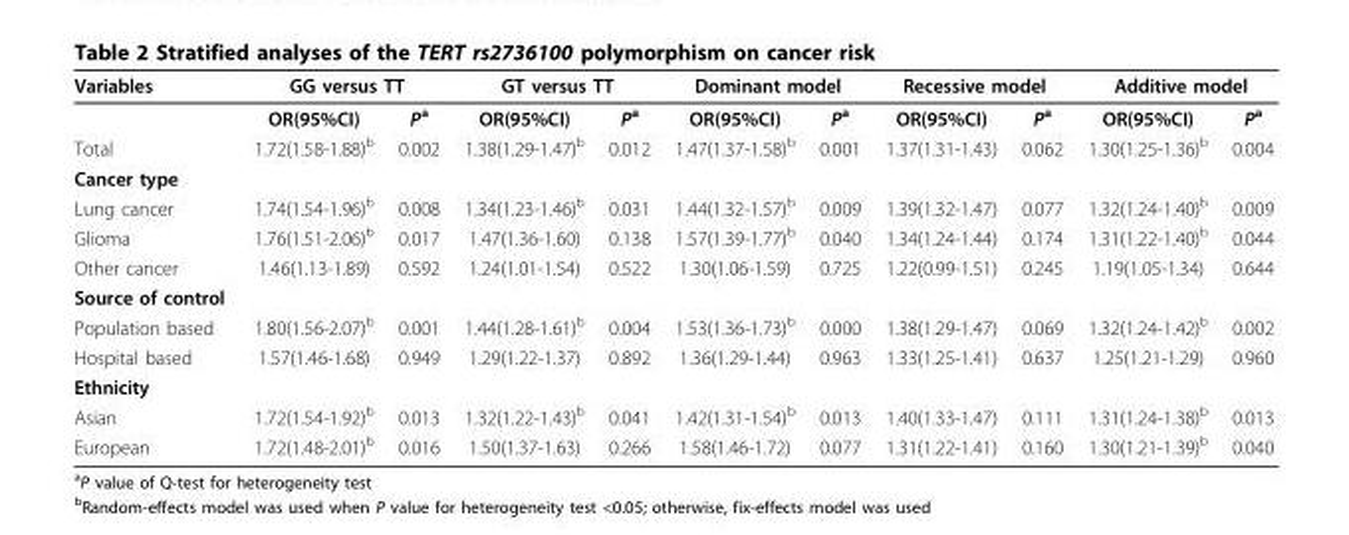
<table><thead><tr><td rowspan="2">Variables</td><td colspan="2">GG versus TT</td><td colspan="2">GT versus TT</td><td colspan="2">Dominant model</td><td colspan="2">Recessive model</td><td colspan="2">Additive model</td></tr><tr><td>OR(95%CI)</td><td>P<sup>a</sup></td><td>OR(95%CI)</td><td>P<sup>a</sup></td><td>OR(95%CI)</td><td>P<sup>a</sup></td><td>OR(95%CI)</td><td>P<sup>a</sup></td><td>OR(95%CI)</td><td>P<sup>a</sup></td></tr></thead><tbody><tr><td>Total</td><td>1.72(1.58-1.88)<sup>b</sup></td><td>0.002</td><td>1.38(1.29-1.47)<sup>b</sup></td><td>0.012</td><td>1.47(1.37-1.58)<sup>b</sup></td><td>0.001</td><td>1.37(1.31-1.43)</td><td>0.062</td><td>1.30(1.25-1.36)<sup>b</sup></td><td>0.004</td></tr><tr><td colspan="11">Cancer type</td></tr><tr><td>Lung cancer</td><td>1.74(1.54-1.96)<sup>b</sup></td><td>0.008</td><td>1.34(1.23-1.46)<sup>b</sup></td><td>0.031</td><td>1.44(1.32-1.57)<sup>b</sup></td><td>0.009</td><td>1.39(1.32-1.47)</td><td>0.077</td><td>1.32(1.24-1.40)<sup>b</sup></td><td>0.009</td></tr><tr><td>Glioma</td><td>1.76(1.51-2.06)<sup>b</sup></td><td>0.017</td><td>1.47(1.36-1.60)</td><td>0.138</td><td>1.57(1.39-1.77)<sup>b</sup></td><td>0.040</td><td>1.34(1.24-1.44)</td><td>0.174</td><td>1.31(1.22-1.40)<sup>b</sup></td><td>0.044</td></tr><tr><td>Other cancer</td><td>1.46(1.13-1.89)</td><td>0.592</td><td>1.24(1.01-1.54)</td><td>0.522</td><td>1.30(1.06-1.59)</td><td>0.725</td><td>1.22(0.99-1.51)</td><td>0.245</td><td>1.19(1.05-1.34)</td><td>0.644</td></tr><tr><td colspan="11">Source of control</td></tr><tr><td>Population based</td><td>1.80(1.56-2.07)<sup>b</sup></td><td>0.001</td><td>1.44(1.28-1.61)<sup>b</sup></td><td>0.004</td><td>1.53(1.36-1.73)<sup>b</sup></td><td>0.000</td><td>1.38(1.29-1.47)</td><td>0.069</td><td>1.32(1.24-1.42)<sup>b</sup></td><td>0.002</td></tr><tr><td>Hospital based</td><td>1.57(1.46-1.68)</td><td>0.949</td><td>1.29(1.22-1.37)</td><td>0.892</td><td>1.36(1.29-1.44)</td><td>0.963</td><td>1.33(1.25-1.41)</td><td>0.637</td><td>1.25(1.21-1.29)</td><td>0.960</td></tr><tr><td colspan="11">Ethnicity</td></tr><tr><td>Asian</td><td>1.72(1.54-1.92)<sup>b</sup></td><td>0.013</td><td>1.32(1.22-1.43)<sup>b</sup></td><td>0.041</td><td>1.42(1.31-1.54)<sup>b</sup></td><td>0.013</td><td>1.40(1.33-1.47)</td><td>0.111</td><td>1.31(1.24-1.38)<sup>b</sup></td><td>0.013</td></tr><tr><td>European</td><td>1.72(1.48-2.01)<sup>b</sup></td><td>0.016</td><td>1.50(1.37-1.63)</td><td>0.266</td><td>1.58(1.46-1.72)</td><td>0.077</td><td>1.31(1.22-1.41)</td><td>0.160</td><td>1.30(1.21-1.39)<sup>b</sup></td><td>0.040</td></tr></tbody></table>